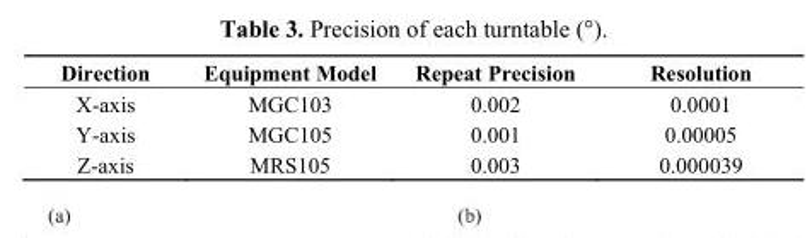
<table><thead><tr><td>Direction</td><td>Equipment Model</td><td>Repeat Precision</td><td>Resolution</td></tr></thead><tbody><tr><td>X-axis</td><td>MGC103</td><td>0.002</td><td>0.0001</td></tr><tr><td>Y-axis</td><td>MGC105</td><td>0.001</td><td>0.00005</td></tr><tr><td>Z-axis</td><td>MRS105</td><td>0.003</td><td>0.000039</td></tr></tbody></table>